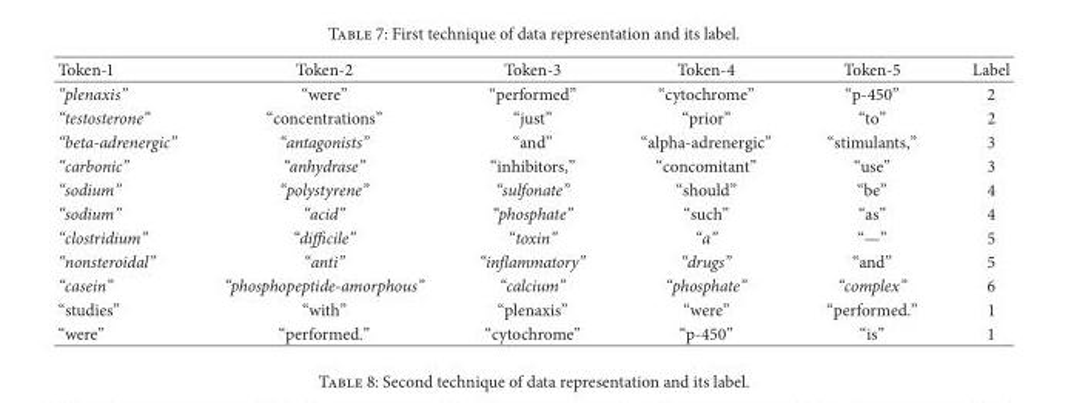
<table><thead><tr><td>Token-1</td><td>Token-2</td><td>Token-3</td><td>Token-4</td><td>Token-5</td><td>Label</td></tr></thead><tbody><tr><td>“plenaxis”</td><td>“were”</td><td>“performed”</td><td>“cytochrome”</td><td>“p-450”</td><td>2</td></tr><tr><td>“testosterone”</td><td>“concentrations”</td><td>“just”</td><td>“prior”</td><td>“to”</td><td>2</td></tr><tr><td>“beta-adrenergic”</td><td>“antagonists”</td><td>“and”</td><td>“alpha-adrenergic”</td><td>“stimulants,”</td><td>3</td></tr><tr><td>“carbonic”</td><td>“anhydrase”</td><td>“inhibitors,”</td><td>“concomitant”</td><td>“use”</td><td>3</td></tr><tr><td>“sodium”</td><td>“polystyrene”</td><td>“sulfonate”</td><td>“should”</td><td>“be”</td><td>4</td></tr><tr><td>“sodium”</td><td>“acid”</td><td>“phosphate”</td><td>“such”</td><td>“as”</td><td>4</td></tr><tr><td>“clostridium”</td><td>“difficile”</td><td>“toxin”</td><td>“a”</td><td>“—”</td><td>5</td></tr><tr><td>“nonsteroidal”</td><td>“anti”</td><td>“inflammatory”</td><td>“drugs”</td><td>“and”</td><td>5</td></tr><tr><td>“casein”</td><td>“phosphopeptide-amorphous”</td><td>“calcium”</td><td>“phosphate”</td><td>“complex”</td><td>6</td></tr><tr><td>“studies”</td><td>“with”</td><td>“plenaxis”</td><td>“were”</td><td>“performed.”</td><td>1</td></tr><tr><td>“were”</td><td>“performed.”</td><td>“cytochrome”</td><td>“p-450”</td><td>“is”</td><td>1</td></tr></tbody></table>